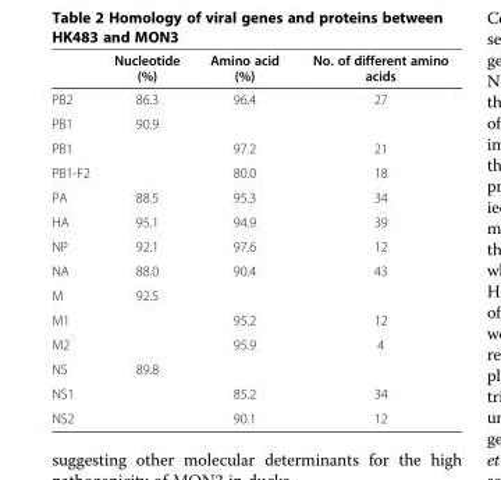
<table><thead><tr><td></td><td>Nucleotide (%)</td><td>Amino acid (%)</td><td>No. of different amino acids</td></tr></thead><tbody><tr><td>PB2</td><td>86.3</td><td>96.4</td><td>27</td></tr><tr><td>PB1</td><td>90.9</td><td></td><td></td></tr><tr><td>PB1</td><td></td><td>97.2</td><td>21</td></tr><tr><td>PB1-F2</td><td></td><td>80.0</td><td>18</td></tr><tr><td>PA</td><td>88.5</td><td>95.3</td><td>34</td></tr><tr><td>HA</td><td>95.1</td><td>94.9</td><td>39</td></tr><tr><td>NP</td><td>92.1</td><td>97.6</td><td>12</td></tr><tr><td>NA</td><td>88.0</td><td>90.4</td><td>43</td></tr><tr><td>M</td><td>92.5</td><td></td><td></td></tr><tr><td>M1</td><td></td><td>95.2</td><td>12</td></tr><tr><td>M2</td><td></td><td>95.9</td><td>4</td></tr><tr><td>NS</td><td>89.8</td><td></td><td></td></tr><tr><td>NS1</td><td></td><td>85.2</td><td>34</td></tr><tr><td>NS2</td><td></td><td>90.1</td><td>12</td></tr></tbody></table>